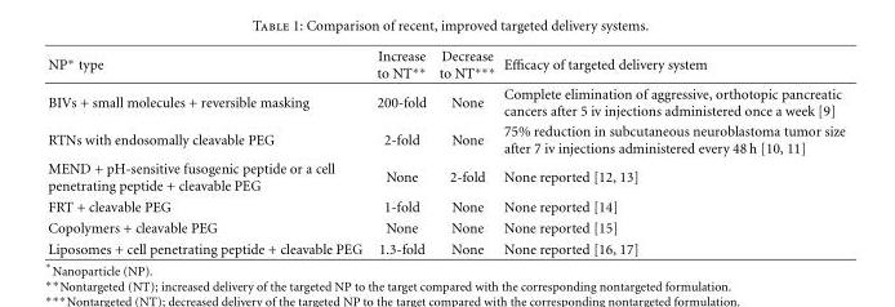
<table><thead><tr><td>NP∗ type</td><td>Increase to NT∗∗</td><td>Decrease to NT∗∗∗</td><td>Efficacy of targeted delivery system</td></tr></thead><tbody><tr><td>BIVs + small molecules + reversible masking</td><td>200-fold</td><td>None</td><td>Complete elimination of aggressive, orthotopic pancreatic cancers after 5 iv injections administered once a week [9]</td></tr><tr><td>RTNs with endosomally cleavable PEG</td><td>2-fold</td><td>None</td><td>75% reduction in subcutaneous neuroblastoma tumor size after 7 iv injections administered every 48 h [10, 11]</td></tr><tr><td>MEND + pH-sensitive fusogenic peptide or a cell penetrating peptide + cleavable PEG</td><td>None</td><td>2-fold</td><td>None reported [12, 13]</td></tr><tr><td>FRT + cleavable PEG</td><td>1-fold</td><td>None</td><td>None reported [14]</td></tr><tr><td>Copolymers + cleavable PEG</td><td>None</td><td>None</td><td>None reported [15]</td></tr><tr><td>Liposomes + cell penetrating peptide + cleavable PEG</td><td>1.3-fold</td><td>None</td><td>None reported [16, 17]</td></tr></tbody></table>